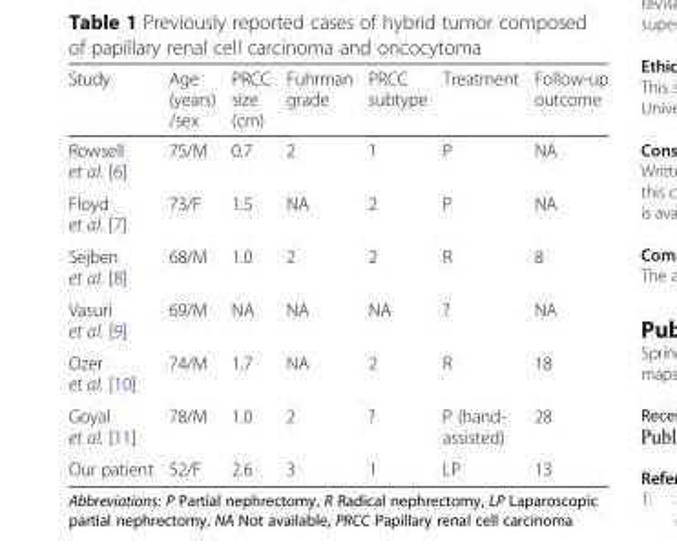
<table><thead><tr><td>Study</td><td>Age (years) /sex</td><td>PRCC size (cm)</td><td>Fuhrman grade</td><td>PRCC subtype</td><td>Treatment</td><td>Follow-up outcome</td></tr></thead><tbody><tr><td>Rowsell et al. [6]</td><td>75/M</td><td>0.7</td><td>2</td><td>1</td><td>P</td><td>NA</td></tr><tr><td>Floyd et al. [7]</td><td>73/F</td><td>1.5</td><td>NA</td><td>2</td><td>P</td><td>NA</td></tr><tr><td>Sejben et al. [8]</td><td>68/M</td><td>1.0</td><td>2</td><td>2</td><td>R</td><td>8</td></tr><tr><td>Vasuri et al. [9]</td><td>69/M</td><td>NA</td><td>NA</td><td>NA</td><td>?</td><td>NA</td></tr><tr><td>Ozer et al. [10]</td><td>74/M</td><td>1.7</td><td>NA</td><td>2</td><td>R</td><td>18</td></tr><tr><td>Goyal et al. [11]</td><td>78/M</td><td>1.0</td><td>2</td><td>?</td><td>P (hand- assisted)</td><td>28</td></tr><tr><td>Our patient</td><td>52/F</td><td>2.6</td><td>3</td><td>1</td><td>LP</td><td>13</td></tr></tbody></table>